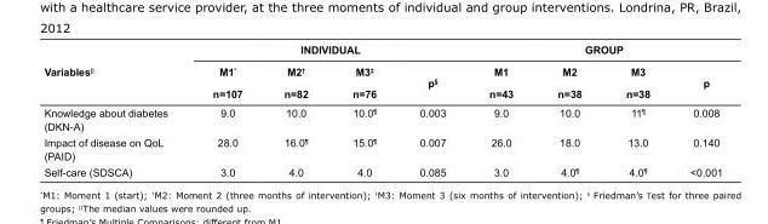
<table><thead><tr><td rowspan="3">Variables<sup>||</sup></td><td colspan="4">INDIVIDUAL</td><td colspan="4">GROUP</td></tr><tr><td rowspan="2">M1* n=107</td><td rowspan="2">M2<sup>†</sup> n=82</td><td rowspan="2">M3<sup>‡</sup> n=76</td><td rowspan="2">p<sup>§</sup></td><td rowspan="2">M1 n=43</td><td rowspan="2">M2 n=38</td><td rowspan="2">M3 n=38</td><td rowspan="2">p</td></tr><tr></tr></thead><tbody><tr><td>Knowledge about diabetes (DKN-A)</td><td>9.0</td><td>10.0</td><td>10.0<sup>¶</sup></td><td>0.003</td><td>9.0</td><td>10.0</td><td>11<sup>¶</sup></td><td>0.008</td></tr><tr><td>Impact of disease on QoL (PAID)</td><td>28.0</td><td>16.0<sup>¶</sup></td><td>15.0<sup>¶</sup></td><td>0.007</td><td>26.0</td><td>18.0</td><td>13.0</td><td>0.140</td></tr><tr><td>Self-care (SDSCA)</td><td>3.0</td><td>4.0</td><td>4.0</td><td>0.085</td><td>3.0</td><td>4.0<sup>¶</sup></td><td>4.0<sup>¶</sup></td><td>&lt;0.001</td></tr></tbody></table>